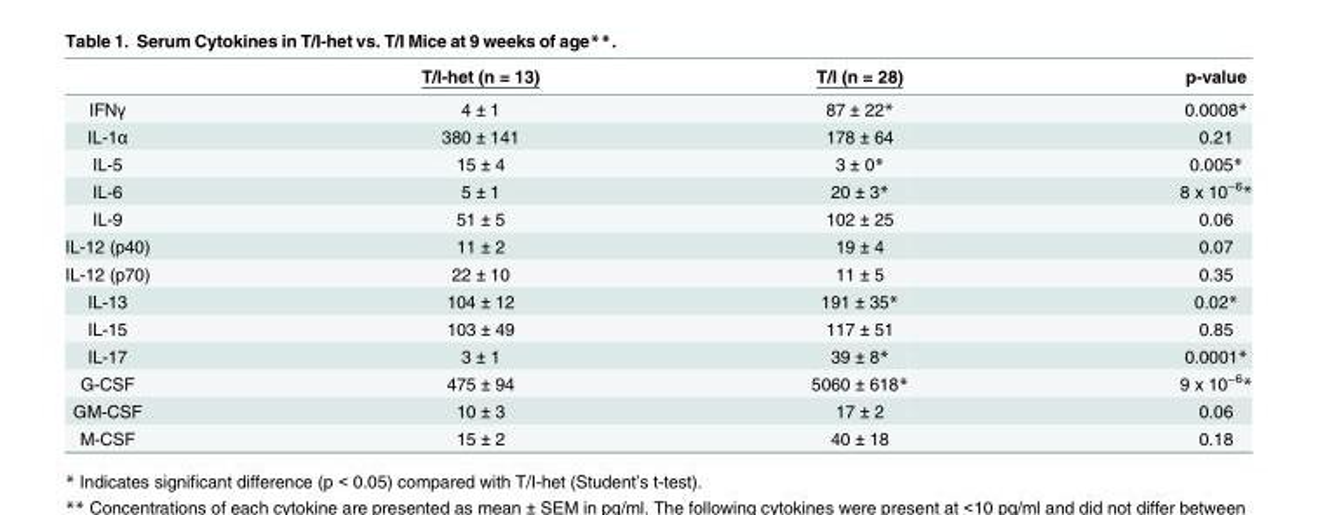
<table><thead><tr><td></td><td>T/I-het (n = 13)</td><td>T/I (n = 28)</td><td>p-value</td></tr></thead><tbody><tr><td>IFNγ</td><td>4 ± 1</td><td>87 ± 22*</td><td>0.0008*</td></tr><tr><td>IL-1α</td><td>380 ± 141</td><td>178 ± 64</td><td>0.21</td></tr><tr><td>IL-5</td><td>15 ± 4</td><td>3 ± 0*</td><td>0.005*</td></tr><tr><td>IL-6</td><td>5 ± 1</td><td>20 ± 3*</td><td>8 x 10<sup>−6</sup>*</td></tr><tr><td>IL-9</td><td>51 ± 5</td><td>102 ± 25</td><td>0.06</td></tr><tr><td>IL-12 (p40)</td><td>11 ± 2</td><td>19 ± 4</td><td>0.07</td></tr><tr><td>IL-12 (p70)</td><td>22 ± 10</td><td>11 ± 5</td><td>0.35</td></tr><tr><td>IL-13</td><td>104 ± 12</td><td>191 ± 35*</td><td>0.02*</td></tr><tr><td>IL-15</td><td>103 ± 49</td><td>117 ± 51</td><td>0.85</td></tr><tr><td>IL-17</td><td>3 ± 1</td><td>39 ± 8*</td><td>0.0001*</td></tr><tr><td>G-CSF</td><td>475 ± 94</td><td>5060 ± 618*</td><td>9 x 10<sup>−6</sup>*</td></tr><tr><td>GM-CSF</td><td>10 ± 3</td><td>17 ± 2</td><td>0.06</td></tr><tr><td>M-CSF</td><td>15 ± 2</td><td>40 ± 18</td><td>0.18</td></tr></tbody></table>